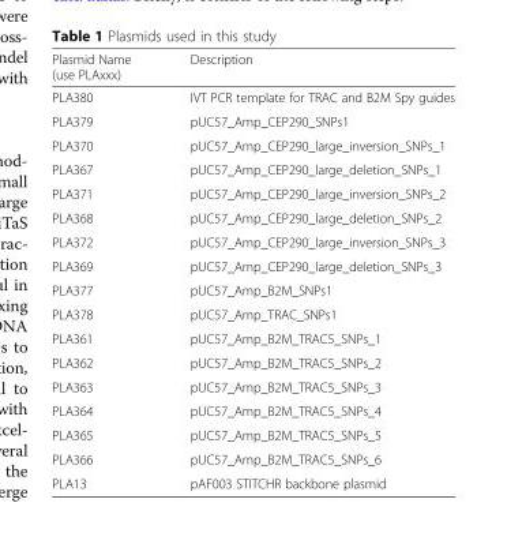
<table><thead><tr><td>Plasmid Name (use PLAxxx)</td><td>Description</td></tr></thead><tbody><tr><td>PLA380</td><td>IVT PCR template for TRAC and B2M Spy guides</td></tr><tr><td>PLA379</td><td>pUC57_Amp_CEP290_SNPs1</td></tr><tr><td>PLA370</td><td>pUC57_Amp_CEP290_large_inversion_SNPs_1</td></tr><tr><td>PLA367</td><td>pUC57_Amp_CEP290_large_deletion_SNPs_1</td></tr><tr><td>PLA371</td><td>pUC57_Amp_CEP290_large_inversion_SNPs_2</td></tr><tr><td>PLA368</td><td>pUC57_Amp_CEP290_large_deletion_SNPs_2</td></tr><tr><td>PLA372</td><td>pUC57_Amp_CEP290_large_inversion_SNPs_3</td></tr><tr><td>PLA369</td><td>pUC57_Amp_CEP290_large_deletion_SNPs_3</td></tr><tr><td>PLA377</td><td>pUC57_Amp_B2M_SNPs1</td></tr><tr><td>PLA378</td><td>pUC57_Amp_TRAC_SNPs1</td></tr><tr><td>PLA361</td><td>pUC57_Amp_B2M_TRAC5_SNPs_1</td></tr><tr><td>PLA362</td><td>pUC57_Amp_B2M_TRAC5_SNPs_2</td></tr><tr><td>PLA363</td><td>pUC57_Amp_B2M_TRAC5_SNPs_3</td></tr><tr><td>PLA364</td><td>pUC57_Amp_B2M_TRAC5_SNPs_4</td></tr><tr><td>PLA365</td><td>pUC57_Amp_B2M_TRAC5_SNPs_5</td></tr><tr><td>PLA366</td><td>pUC57_Amp_B2M_TRAC5_SNPs_6</td></tr><tr><td>PLA13</td><td>pAF003 STITCHR backbone plasmid</td></tr></tbody></table>